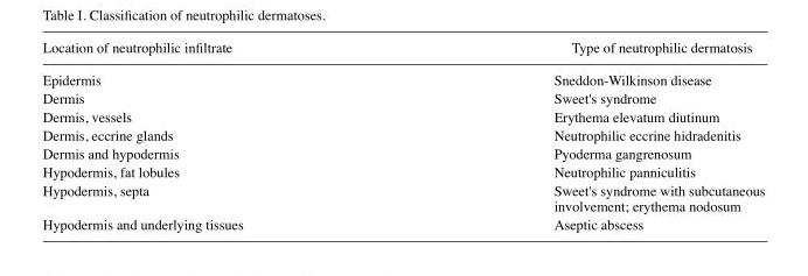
<table><thead><tr><td>Location of neutrophilic infiltrate</td><td>Type of neutrophilic dermatosis</td></tr></thead><tbody><tr><td>Epidermis</td><td>Sneddon-Wilkinson disease</td></tr><tr><td>Dermis</td><td>Sweet&#x27;s syndrome</td></tr><tr><td>Dermis, vessels</td><td>Erythema elevatum diutinum</td></tr><tr><td>Dermis, eccrine glands</td><td>Neutrophilic eccrine hidradenitis</td></tr><tr><td>Dermis and hypodermis</td><td>Pyoderma gangrenosum</td></tr><tr><td>Hypodermis, fat lobules</td><td>Neutrophilic panniculitis</td></tr><tr><td>Hypodermis, septa</td><td>Sweet&#x27;s syndrome with subcutaneous involvement; erythema nodosum</td></tr><tr><td>Hypodermis and underlying tissues</td><td>Aseptic abscess</td></tr></tbody></table>